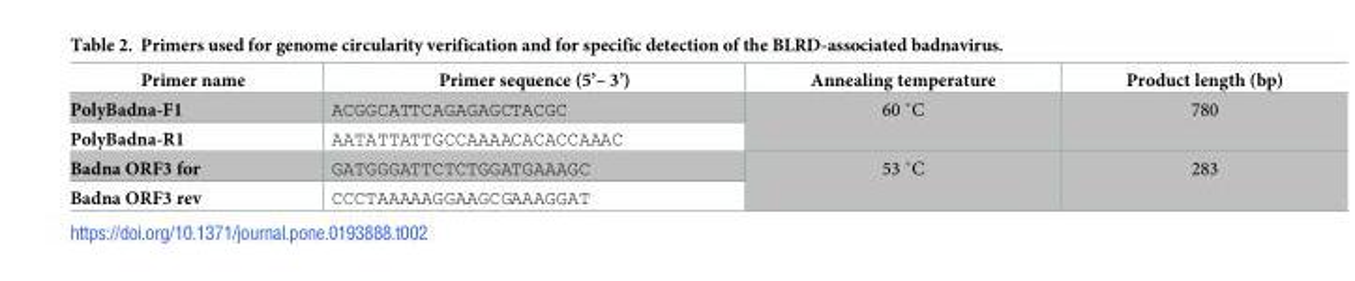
<table><thead><tr><td>Primer name</td><td>Primer sequence (5’– 3’)</td><td>Annealing temperature</td><td>Product length (bp)</td></tr></thead><tbody><tr><td>PolyBadna-F1</td><td>ACGGCATTCAGAGAGCTACGC</td><td rowspan="2">60 ˚C</td><td rowspan="2">780</td></tr><tr><td>PolyBadna-R1</td><td>AATATTATTGCCAAAACACACCAAAC</td></tr><tr><td>Badna ORF3 for</td><td>GATGGGATTCTCTGGATGAAAGC</td><td rowspan="2">53 ˚C</td><td rowspan="2">283</td></tr><tr><td>Badna ORF3 rev</td><td>CCCTAAAAAGGAAGCGAAAGGAT</td></tr></tbody></table>